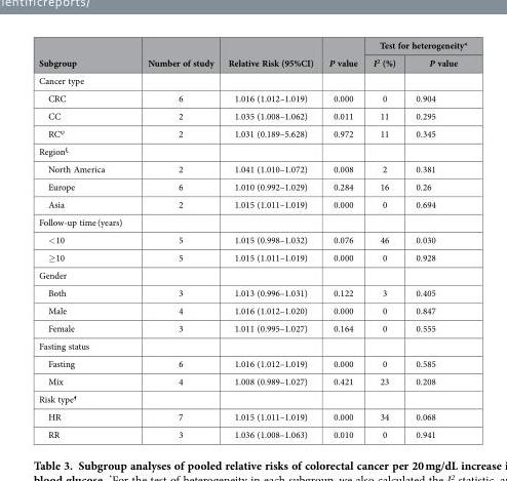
<table><thead><tr><td rowspan="2">Subgroup</td><td rowspan="2">Number of study</td><td rowspan="2">Relative Risk (95%CI)</td><td rowspan="2">P value</td><td colspan="2">Test for heterogeneity*</td></tr><tr><td>I<sup>2</sup> (%)</td><td>P value</td></tr></thead><tbody><tr><td colspan="6">Cancer type</td></tr><tr><td>CRC</td><td>6</td><td>1.016 (1.012–1.019)</td><td>0.000</td><td>0</td><td>0.904</td></tr><tr><td>CC</td><td>2</td><td>1.035 (1.008–1.062)</td><td>0.011</td><td>11</td><td>0.295</td></tr><tr><td>RC<sup>ψ</sup></td><td>2</td><td>1.031 (0.189–5.628)</td><td>0.972</td><td>11</td><td>0.345</td></tr><tr><td colspan="6">Region<sup>ξ</sup></td></tr><tr><td>North America</td><td>2</td><td>1.041 (1.010–1.072)</td><td>0.008</td><td>2</td><td>0.381</td></tr><tr><td>Europe</td><td>6</td><td>1.010 (0.992–1.029)</td><td>0.284</td><td>16</td><td>0.26</td></tr><tr><td>Asia</td><td>2</td><td>1.015 (1.011–1.019)</td><td>0.000</td><td>0</td><td>0.694</td></tr><tr><td colspan="6">Follow-up time (years)</td></tr><tr><td>&lt; 10</td><td>5</td><td>1.015 (0.998–1.032)</td><td>0.076</td><td>46</td><td>0.030</td></tr><tr><td>≥ 10</td><td>5</td><td>1.015 (1.011–1.019)</td><td>0.000</td><td>0</td><td>0.928</td></tr><tr><td colspan="6">Gender</td></tr><tr><td>Both</td><td>3</td><td>1.013 (0.996–1.031)</td><td>0.122</td><td>3</td><td>0.405</td></tr><tr><td>Male</td><td>4</td><td>1.016 (1.012–1.020)</td><td>0.000</td><td>0</td><td>0.847</td></tr><tr><td>Female</td><td>3</td><td>1.011 (0.995–1.027)</td><td>0.164</td><td>0</td><td>0.555</td></tr><tr><td colspan="6">Fasting status</td></tr><tr><td>Fasting</td><td>6</td><td>1.016 (1.012–1.019)</td><td>0.000</td><td>0</td><td>0.585</td></tr><tr><td>Mix</td><td>4</td><td>1.008 (0.989–1.027)</td><td>0.421</td><td>23</td><td>0.208</td></tr><tr><td colspan="6">Risk type<sup>¶</sup></td></tr><tr><td>HR</td><td>7</td><td>1.015 (1.011–1.019)</td><td>0.000</td><td>34</td><td>0.068</td></tr><tr><td>RR</td><td>3</td><td>1.036 (1.008–1.063)</td><td>0.010</td><td>0</td><td>0.941</td></tr></tbody></table>